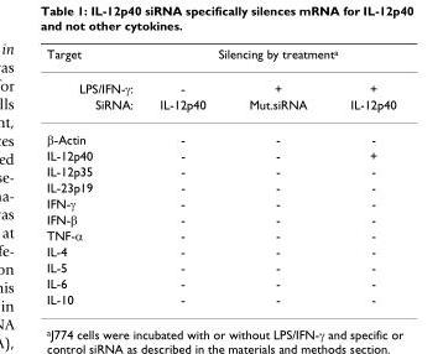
<table><thead><tr><td rowspan="2">Target LPS/IFN-γ:</td><td colspan="3">Silencing by treatment<sup>a</sup></td></tr><tr><td>-</td><td>+</td><td>+</td></tr></thead><tbody><tr><td>SiRNA:</td><td>IL-12p40</td><td>Mut.siRNA</td><td>IL-12p40</td></tr><tr><td>β-Actin</td><td>-</td><td>-</td><td>-</td></tr><tr><td>IL-12p40</td><td>-</td><td>-</td><td>+</td></tr><tr><td>IL-12p35</td><td>-</td><td>-</td><td>-</td></tr><tr><td>IL-23p19</td><td>-</td><td>-</td><td>-</td></tr><tr><td>IFN-γ</td><td>-</td><td>-</td><td>-</td></tr><tr><td>IFN-β</td><td>-</td><td>-</td><td>-</td></tr><tr><td>TNF-α</td><td>-</td><td>-</td><td>-</td></tr><tr><td>IL-4</td><td>-</td><td>-</td><td>-</td></tr><tr><td>IL-5</td><td>-</td><td>-</td><td>-</td></tr><tr><td>IL-6</td><td>-</td><td>-</td><td>-</td></tr><tr><td>IL-10</td><td>-</td><td>-</td><td>-</td></tr></tbody></table>